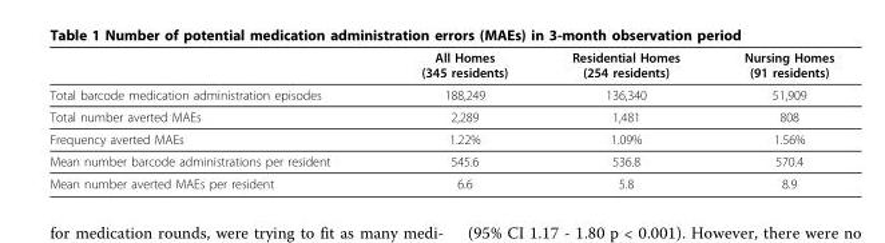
<table><thead><tr><td></td><td>All Homes (345 residents)</td><td>Residential Homes (254 residents)</td><td>Nursing Homes (91 residents)</td></tr></thead><tbody><tr><td>Total barcode medication administration episodes</td><td>188,249</td><td>136,340</td><td>51,909</td></tr><tr><td>Total number averted MAEs</td><td>2,289</td><td>1,481</td><td>808</td></tr><tr><td>Frequency averted MAEs</td><td>1.22%</td><td>1.09%</td><td>1.56%</td></tr><tr><td>Mean number barcode administrations per resident</td><td>545.6</td><td>536.8</td><td>570.4</td></tr><tr><td>Mean number averted MAEs per resident</td><td>6.6</td><td>5.8</td><td>8.9</td></tr></tbody></table>